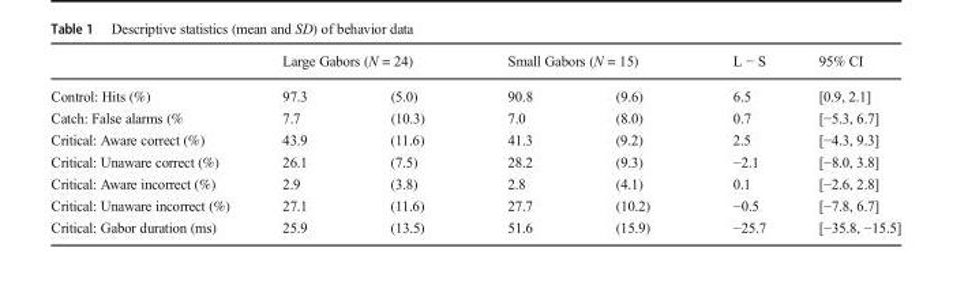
<table><thead><tr><td rowspan="2">Control: Hits (%)</td><td colspan="2">Large Gabors (N = 24)</td><td colspan="2">Small Gabors (N = 15)</td><td rowspan="2">L − S 6.5</td><td rowspan="2">95% CI [0.9, 2.1]</td></tr><tr><td>97.3</td><td>(5.0)</td><td>90.8</td><td>(9.6)</td></tr></thead><tbody><tr><td>Catch: False alarms (%</td><td>7.7</td><td>(10.3)</td><td>7.0</td><td>(8.0)</td><td>0.7</td><td>[−5.3, 6.7]</td></tr><tr><td>Critical: Aware correct (%)</td><td>43.9</td><td>(11.6)</td><td>41.3</td><td>(9.2)</td><td>2.5</td><td>[−4.3, 9.3]</td></tr><tr><td>Critical: Unaware correct (%)</td><td>26.1</td><td>(7.5)</td><td>28.2</td><td>(9.3)</td><td>−2.1</td><td>[−8.0, 3.8]</td></tr><tr><td>Critical: Aware incorrect (%)</td><td>2.9</td><td>(3.8)</td><td>2.8</td><td>(4.1)</td><td>0.1</td><td>[−2.6, 2.8]</td></tr><tr><td>Critical: Unaware incorrect (%)</td><td>27.1</td><td>(11.6)</td><td>27.7</td><td>(10.2)</td><td>−0.5</td><td>[−7.8, 6.7]</td></tr><tr><td>Critical: Gabor duration (ms)</td><td>25.9</td><td>(13.5)</td><td>51.6</td><td>(15.9)</td><td>−25.7</td><td>[−35.8, −15.5]</td></tr></tbody></table>